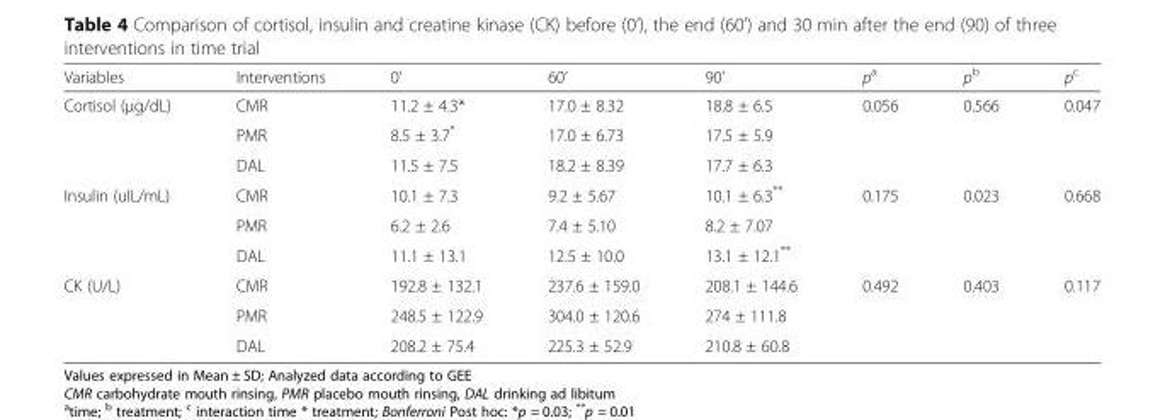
<table><thead><tr><td>Variables</td><td>Interventions</td><td>0’</td><td>60’</td><td>90’</td><td>p<sup>a</sup></td><td>p<sup>b</sup></td><td>p<sup>c</sup></td></tr></thead><tbody><tr><td rowspan="3">Cortisol (μg/dL)</td><td>CMR</td><td>11.2 ± 4.3*</td><td>17.0 ± 8.32</td><td>18.8 ± 6.5</td><td>0.056</td><td>0.566</td><td>0.047</td></tr><tr><td>PMR</td><td>8.5 ± 3.7*</td><td>17.0 ± 6.73</td><td>17.5 ± 5.9</td><td></td><td></td><td></td></tr><tr><td>DAL</td><td>11.5 ± 7.5</td><td>18.2 ± 8.39</td><td>17.7 ± 6.3</td><td></td><td></td><td></td></tr><tr><td rowspan="3">Insulin (uIL/mL)</td><td>CMR</td><td>10.1 ± 7.3</td><td>9.2 ± 5.67</td><td>10.1 ± 6.3**</td><td>0.175</td><td>0.023</td><td>0.668</td></tr><tr><td>PMR</td><td>6.2 ± 2.6</td><td>7.4 ± 5.10</td><td>8.2 ± 7.07</td><td></td><td></td><td></td></tr><tr><td>DAL</td><td>11.1 ± 13.1</td><td>12.5 ± 10.0</td><td>13.1 ± 12.1**</td><td></td><td></td><td></td></tr><tr><td rowspan="3">CK (U/L)</td><td>CMR</td><td>192.8 ± 132.1</td><td>237.6 ± 159.0</td><td>208.1 ± 144.6</td><td>0.492</td><td>0.403</td><td>0.117</td></tr><tr><td>PMR</td><td>248.5 ± 122.9</td><td>304.0 ± 120.6</td><td>274 ± 111.8</td><td></td><td></td><td></td></tr><tr><td>DAL</td><td>208.2 ± 75.4</td><td>225.3 ± 52.9</td><td>210.8 ± 60.8</td><td></td><td></td><td></td></tr></tbody></table>